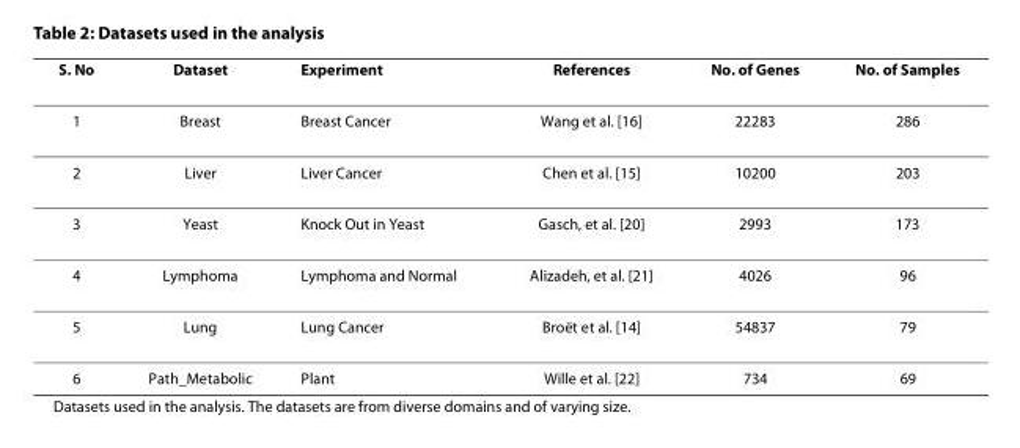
<table><thead><tr><td>S. No</td><td>Dataset</td><td>Experiment</td><td>References</td><td>No. of Genes</td><td>No. of Samples</td></tr></thead><tbody><tr><td>1</td><td>Breast</td><td>Breast Cancer</td><td>Wang et al. [16]</td><td>22283</td><td>286</td></tr><tr><td>2</td><td>Liver</td><td>Liver Cancer</td><td>Chen et al. [15]</td><td>10200</td><td>203</td></tr><tr><td>3</td><td>Yeast</td><td>Knock Out in Yeast</td><td>Gasch, et al. [20]</td><td>2993</td><td>173</td></tr><tr><td>4</td><td>Lymphoma</td><td>Lymphoma and Normal</td><td>Alizadeh, et al. [21]</td><td>4026</td><td>96</td></tr><tr><td>5</td><td>Lung</td><td>Lung Cancer</td><td>Broët et al. [14]</td><td>54837</td><td>79</td></tr><tr><td>6</td><td>Path_Metabolic</td><td>Plant</td><td>Wille et al. [22]</td><td>734</td><td>69</td></tr></tbody></table>